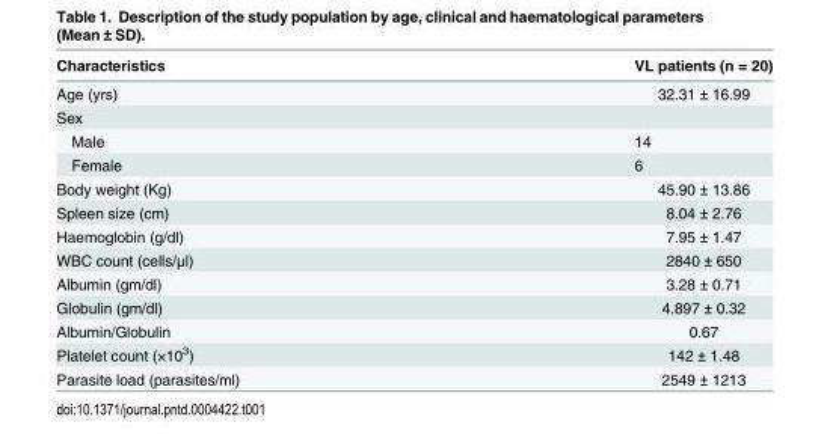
<table><thead><tr><td>Characteristics</td><td>VL patients (n = 20)</td></tr></thead><tbody><tr><td>Age (yrs)</td><td>32.31 ± 16.99</td></tr><tr><td colspan="2">Sex</td></tr><tr><td>Male</td><td>14</td></tr><tr><td>Female</td><td>6</td></tr><tr><td>Body weight (Kg)</td><td>45.90 ± 13.86</td></tr><tr><td>Spleen size (cm)</td><td>8.04 ± 2.76</td></tr><tr><td>Haemoglobin (g/dl)</td><td>7.95 ± 1.47</td></tr><tr><td>WBC count (cells/μl)</td><td>2840 ± 650</td></tr><tr><td>Albumin (gm/dl)</td><td>3.28 ± 0.71</td></tr><tr><td>Globulin (gm/dl)</td><td>4.897 ± 0.32</td></tr><tr><td>Albumin/Globulin</td><td>0.67</td></tr><tr><td>Platelet count (×10<sup>3</sup>)</td><td>142 ± 1.48</td></tr><tr><td>Parasite load (parasites/ml)</td><td>2549 ± 1213</td></tr></tbody></table>